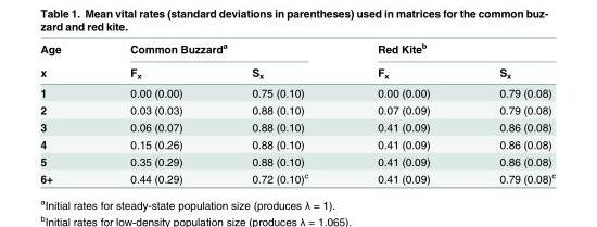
<table><thead><tr><td rowspan="2">Age x</td><td colspan="2">Common Buzzard<sup>a</sup></td><td colspan="2">Red Kite<sup>b</sup></td></tr><tr><td>F<sub>x</sub></td><td>S<sub>x</sub></td><td>F<sub>x</sub></td><td>S<sub>x</sub></td></tr></thead><tbody><tr><td>1</td><td>0.00 (0.00)</td><td>0.75 (0.10)</td><td>0.00 (0.00)</td><td>0.79 (0.08)</td></tr><tr><td>2</td><td>0.03 (0.03)</td><td>0.88 (0.10)</td><td>0.07 (0.09)</td><td>0.79 (0.08)</td></tr><tr><td>3</td><td>0.06 (0.07)</td><td>0.88 (0.10)</td><td>0.41 (0.09)</td><td>0.86 (0.08)</td></tr><tr><td>4</td><td>0.15 (0.26)</td><td>0.88 (0.10)</td><td>0.41 (0.09)</td><td>0.86 (0.08)</td></tr><tr><td>5</td><td>0.35 (0.29)</td><td>0.88 (0.10)</td><td>0.41 (0.09)</td><td>0.86 (0.08)</td></tr><tr><td>6+</td><td>0.44 (0.29)</td><td>0.72 (0.10)<sup>c</sup></td><td>0.41 (0.09)</td><td>0.79 (0.08)<sup>c</sup></td></tr></tbody></table>